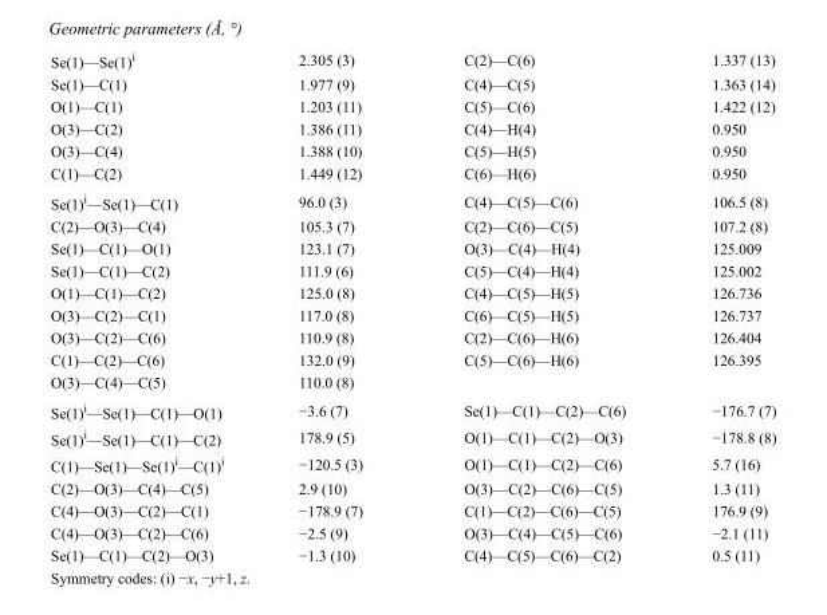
<table><tbody><tr><td>Se(1)—Se(1)<sup>i</sup></td><td>2.305 (3)</td><td>C(2)—C(6)</td><td>1.337 (13)</td></tr><tr><td>Se(1)—C(1)</td><td>1.977 (9)</td><td>C(4)—C(5)</td><td>1.363 (14)</td></tr><tr><td>O(1)—C(1)</td><td>1.203 (11)</td><td>C(5)—C(6)</td><td>1.422 (12)</td></tr><tr><td>O(3)—C(2)</td><td>1.386 (11)</td><td>C(4)—H(4)</td><td>0.950</td></tr><tr><td>O(3)—C(4)</td><td>1.388 (10)</td><td>C(5)—H(5)</td><td>0.950</td></tr><tr><td>C(1)—C(2)</td><td>1.449 (12)</td><td>C(6)—H(6)</td><td>0.950</td></tr><tr><td>Se(1)<sup>i</sup>—Se(1)—C(1)</td><td>96.0 (3)</td><td>C(4)—C(5)—C(6)</td><td>106.5 (8)</td></tr><tr><td>C(2)—O(3)—C(4)</td><td>105.3 (7)</td><td>C(2)—C(6)—C(5)</td><td>107.2 (8)</td></tr><tr><td>Se(1)—C(1)—O(1)</td><td>123.1 (7)</td><td>O(3)—C(4)—H(4)</td><td>125.009</td></tr><tr><td>Se(1)—C(1)—C(2)</td><td>111.9 (6)</td><td>C(5)—C(4)—H(4)</td><td>125.002</td></tr><tr><td>O(1)—C(1)—C(2)</td><td>125.0 (8)</td><td>C(4)—C(5)—H(5)</td><td>126.736</td></tr><tr><td>O(3)—C(2)—C(1)</td><td>117.0 (8)</td><td>C(6)—C(5)—H(5)</td><td>126.737</td></tr><tr><td>O(3)—C(2)—C(6)</td><td>110.9 (8)</td><td>C(2)—C(6)—H(6)</td><td>126.404</td></tr><tr><td>C(1)—C(2)—C(6)</td><td>132.0 (9)</td><td>C(5)—C(6)—H(6)</td><td>126.395</td></tr><tr><td>O(3)—C(4)—C(5)</td><td>110.0 (8)</td><td></td><td></td></tr><tr><td>Se(1)<sup>i</sup>—Se(1)—C(1)—O(1)</td><td>−3.6 (7)</td><td>Se(1)—C(1)—C(2)—C(6)</td><td>−176.7 (7)</td></tr><tr><td>Se(1)<sup>i</sup>—Se(1)—C(1)—C(2)</td><td>178.9 (5)</td><td>O(1)—C(1)—C(2)—O(3)</td><td>−178.8 (8)</td></tr><tr><td>C(1)—Se(1)—Se(1)<sup>i</sup>—C(1)<sup>i</sup></td><td>−120.5 (3)</td><td>O(1)—C(1)—C(2)—C(6)</td><td>5.7 (16)</td></tr><tr><td>C(2)—O(3)—C(4)—C(5)</td><td>2.9 (10)</td><td>O(3)—C(2)—C(6)—C(5)</td><td>1.3 (11)</td></tr><tr><td>C(4)—O(3)—C(2)—C(1)</td><td>−178.9 (7)</td><td>C(1)—C(2)—C(6)—C(5)</td><td>176.9 (9)</td></tr><tr><td>C(4)—O(3)—C(2)—C(6)</td><td>−2.5 (9)</td><td>O(3)—C(4)—C(5)—C(6)</td><td>−2.1 (11)</td></tr><tr><td>Se(1)—C(1)—C(2)—O(3)</td><td>−1.3 (10)</td><td>C(4)—C(5)—C(6)—C(2)</td><td>0.5 (11)</td></tr></tbody></table>